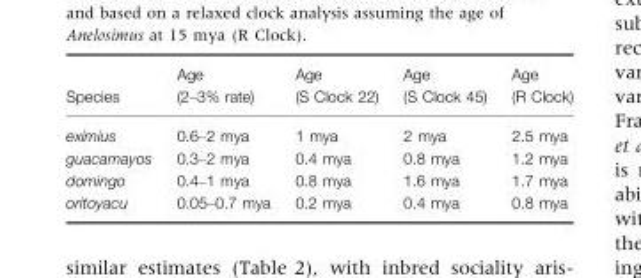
<table><thead><tr><td>Species</td><td>Age (2–3% rate)</td><td>Age (S Clock 22)</td><td>Age (S Clock 45)</td><td>Age (R Clock)</td></tr></thead><tbody><tr><td>eximius</td><td>0.6–2 mya</td><td>1 mya</td><td>2 mya</td><td>2.5 mya</td></tr><tr><td>guacamayos</td><td>0.3–2 mya</td><td>0.4 mya</td><td>0.8 mya</td><td>1.2 mya</td></tr><tr><td>domingo</td><td>0.4–1 mya</td><td>0.8 mya</td><td>1.6 mya</td><td>1.7 mya</td></tr><tr><td>oritoyacu</td><td>0.05–0.7 mya</td><td>0.2 mya</td><td>0.4 mya</td><td>0.8 mya</td></tr></tbody></table>